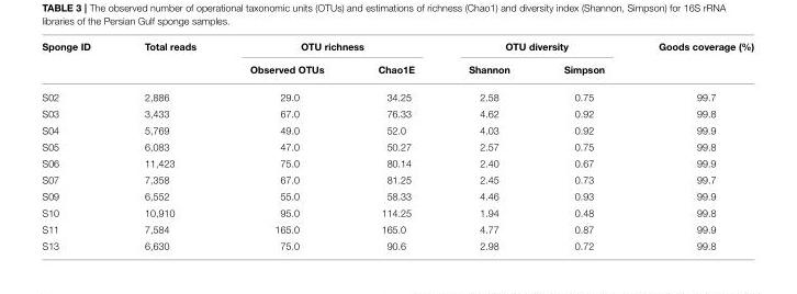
<table><thead><tr><td rowspan="2">Sponge ID</td><td rowspan="2">Total reads</td><td colspan="2">OTU richness</td><td colspan="2">OTU diversity</td><td rowspan="2">Goods coverage (%)</td></tr><tr><td>Observed OTUs</td><td>Chao1E</td><td>Shannon</td><td>Simpson</td></tr></thead><tbody><tr><td>S02</td><td>2,886</td><td>29.0</td><td>34.25</td><td>2.58</td><td>0.75</td><td>99.7</td></tr><tr><td>S03</td><td>3,433</td><td>67.0</td><td>76.33</td><td>4.62</td><td>0.92</td><td>99.8</td></tr><tr><td>S04</td><td>5,769</td><td>49.0</td><td>52.0</td><td>4.03</td><td>0.92</td><td>99.9</td></tr><tr><td>S05</td><td>6,083</td><td>47.0</td><td>50.27</td><td>2.57</td><td>0.75</td><td>99.8</td></tr><tr><td>S06</td><td>11,423</td><td>75.0</td><td>80.14</td><td>2.40</td><td>0.67</td><td>99.9</td></tr><tr><td>S07</td><td>7,358</td><td>67.0</td><td>81.25</td><td>2.45</td><td>0.73</td><td>99.7</td></tr><tr><td>S09</td><td>6,552</td><td>55.0</td><td>58.33</td><td>4.46</td><td>0.93</td><td>99.9</td></tr><tr><td>S10</td><td>10,910</td><td>95.0</td><td>114.25</td><td>1.94</td><td>0.48</td><td>99.8</td></tr><tr><td>S11</td><td>7,584</td><td>165.0</td><td>165.0</td><td>4.77</td><td>0.87</td><td>99.9</td></tr><tr><td>S13</td><td>6,630</td><td>75.0</td><td>90.6</td><td>2.98</td><td>0.72</td><td>99.8</td></tr></tbody></table>